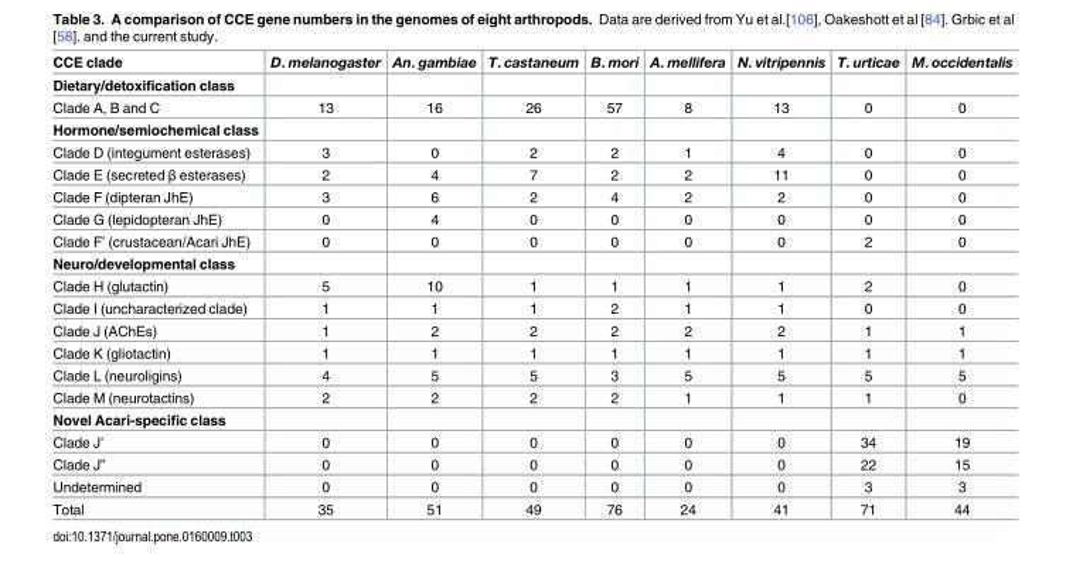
<table><thead><tr><td>CCE clade</td><td>D. melanogaster</td><td>An. gambiae</td><td>T. castaneum</td><td>B. mori</td><td>A. mellifera</td><td>N. vitripennis</td><td>T. urticae</td><td>M. occidentalis</td></tr></thead><tbody><tr><td colspan="9">Dietary/detoxification class</td></tr><tr><td>Clade A, B and C</td><td>13</td><td>16</td><td>26</td><td>57</td><td>8</td><td>13</td><td>0</td><td>0</td></tr><tr><td colspan="9">Hormone/semiochemical class</td></tr><tr><td>Clade D (integument esterases)</td><td>3</td><td>0</td><td>2</td><td>2</td><td>1</td><td>4</td><td>0</td><td>0</td></tr><tr><td>Clade E (secreted β esterases)</td><td>2</td><td>4</td><td>7</td><td>2</td><td>2</td><td>11</td><td>0</td><td>0</td></tr><tr><td>Clade F (dipteran JhE)</td><td>3</td><td>6</td><td>2</td><td>4</td><td>2</td><td>2</td><td>0</td><td>0</td></tr><tr><td>Clade G (lepidopteran JhE)</td><td>0</td><td>4</td><td>0</td><td>0</td><td>0</td><td>0</td><td>0</td><td>0</td></tr><tr><td>Clade F’ (crustacean/Acari JhE)</td><td>0</td><td>0</td><td>0</td><td>0</td><td>0</td><td>0</td><td>2</td><td>0</td></tr><tr><td colspan="9">Neuro/developmental class</td></tr><tr><td>Clade H (glutactin)</td><td>5</td><td>10</td><td>1</td><td>1</td><td>1</td><td>1</td><td>2</td><td>0</td></tr><tr><td>Clade I (uncharacterized clade)</td><td>1</td><td>1</td><td>1</td><td>2</td><td>1</td><td>1</td><td>0</td><td>0</td></tr><tr><td>Clade J (AChEs)</td><td>1</td><td>2</td><td>2</td><td>2</td><td>2</td><td>2</td><td>1</td><td>1</td></tr><tr><td>Clade K (gliotactin)</td><td>1</td><td>1</td><td>1</td><td>1</td><td>1</td><td>1</td><td>1</td><td>1</td></tr><tr><td>Clade L (neuroligins)</td><td>4</td><td>5</td><td>5</td><td>3</td><td>5</td><td>5</td><td>5</td><td>5</td></tr><tr><td>Clade M (neurotactins)</td><td>2</td><td>2</td><td>2</td><td>2</td><td>1</td><td>1</td><td>1</td><td>0</td></tr><tr><td colspan="9">Novel Acari-specific class</td></tr><tr><td>Clade J’</td><td>0</td><td>0</td><td>0</td><td>0</td><td>0</td><td>0</td><td>34</td><td>19</td></tr><tr><td>Clade J”</td><td>0</td><td>0</td><td>0</td><td>0</td><td>0</td><td>0</td><td>22</td><td>15</td></tr><tr><td>Undetermined</td><td>0</td><td>0</td><td>0</td><td>0</td><td>0</td><td>0</td><td>3</td><td>3</td></tr><tr><td>Total</td><td>35</td><td>51</td><td>49</td><td>76</td><td>24</td><td>41</td><td>71</td><td>44</td></tr></tbody></table>